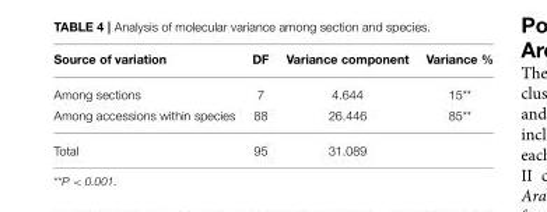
<table><thead><tr><td>Source of variation</td><td>DF</td><td>Variance component</td><td>Variance %</td></tr></thead><tbody><tr><td>Among sections</td><td>7</td><td>4.644</td><td>15**</td></tr><tr><td>Among accessions within species</td><td>88</td><td>26.446</td><td>85**</td></tr><tr><td>Total</td><td>95</td><td>31.089</td><td></td></tr></tbody></table>